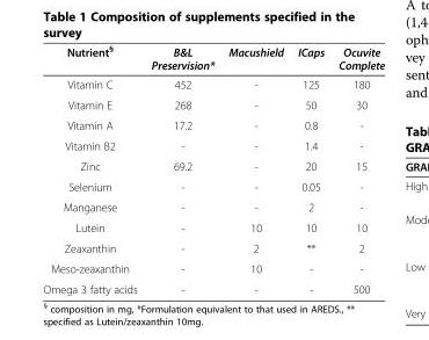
<table><thead><tr><td>Nutrient<sup>§</sup></td><td>B&amp;L Preservision*</td><td>Macushield</td><td>ICaps</td><td>Ocuvite Complete</td></tr></thead><tbody><tr><td>Vitamin C</td><td>452</td><td>-</td><td>125</td><td>180</td></tr><tr><td>Vitamin E</td><td>268</td><td>-</td><td>50</td><td>30</td></tr><tr><td>Vitamin A</td><td>17.2</td><td>-</td><td>0.8</td><td>-</td></tr><tr><td>Vitamin B2</td><td>-</td><td>-</td><td>1.4</td><td>-</td></tr><tr><td>Zinc</td><td>69.2</td><td>-</td><td>20</td><td>15</td></tr><tr><td>Selenium</td><td>-</td><td>-</td><td>0.05</td><td>-</td></tr><tr><td>Manganese</td><td>-</td><td>-</td><td>2</td><td>-</td></tr><tr><td>Lutein</td><td>-</td><td>10</td><td>10</td><td>10</td></tr><tr><td>Zeaxanthin</td><td>-</td><td>2</td><td>**</td><td>2</td></tr><tr><td>Meso-zeaxanthin</td><td>-</td><td>10</td><td>-</td><td>-</td></tr><tr><td>Omega 3 fatty acids</td><td>-</td><td>-</td><td>-</td><td>500</td></tr></tbody></table>